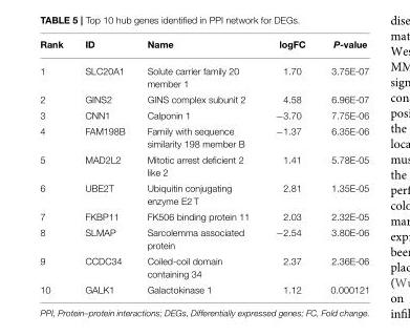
<table><thead><tr><td>Rank</td><td>ID</td><td>Name</td><td>logFC</td><td>P-value</td></tr></thead><tbody><tr><td>1</td><td>SLC20A1</td><td>Solute carrier family 20 member 1</td><td>1.70</td><td>3.75E-07</td></tr><tr><td>2</td><td>GINS2</td><td>GINS complex subunit 2</td><td>4.58</td><td>6.96E-07</td></tr><tr><td>3</td><td>CNN1</td><td>Calponin 1</td><td>−3.70</td><td>7.75E-06</td></tr><tr><td>4</td><td>FAM198B</td><td>Family with sequence similarity 198 member B</td><td>−1.37</td><td>6.35E-06</td></tr><tr><td>5</td><td>MAD2L2</td><td>Mitotic arrest deficient 2 like 2</td><td>1.41</td><td>5.78E-05</td></tr><tr><td>6</td><td>UBE2T</td><td>Ubiquitin conjugating enzyme E2 T</td><td>2.81</td><td>1.35E-05</td></tr><tr><td>7</td><td>FKBP11</td><td>FK506 binding protein 11</td><td>2.03</td><td>2.32E-05</td></tr><tr><td>8</td><td>SLMAP</td><td>Sarcolemma associated protein</td><td>−2.54</td><td>3.80E-06</td></tr><tr><td>9</td><td>CCDC34</td><td>Coiled-coil domain containing 34</td><td>2.37</td><td>2.36E-06</td></tr><tr><td>10</td><td>GALK1</td><td>Galactokinase 1</td><td>1.12</td><td>0.000121</td></tr></tbody></table>